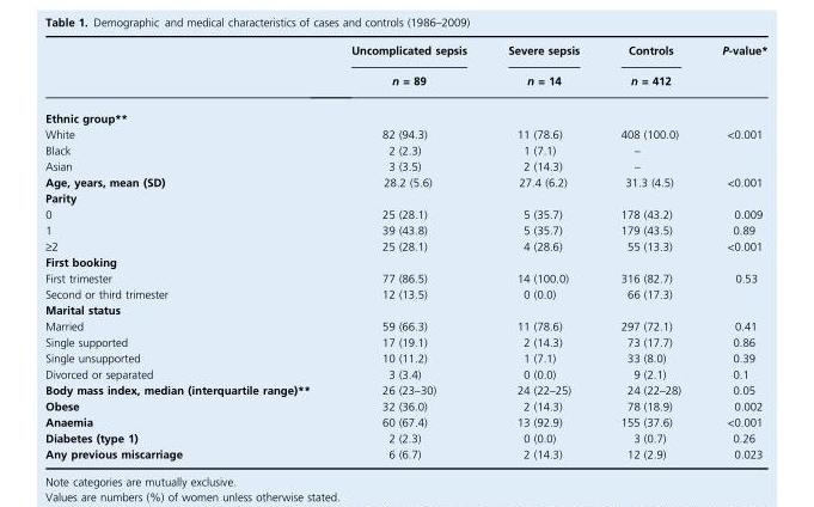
<table><thead><tr><td rowspan="2"></td><td rowspan="2">Uncomplicated sepsis n = 89</td><td rowspan="2">Severe sepsis n = 14</td><td rowspan="2">Controls n = 412</td><td rowspan="2">P-value*</td></tr><tr></tr></thead><tbody><tr><td colspan="5">Ethnic group**</td></tr><tr><td>White</td><td>82 (94.3)</td><td>11 (78.6)</td><td>408 (100.0)</td><td>&lt;0.001</td></tr><tr><td>Black</td><td>2 (2.3)</td><td>1 (7.1)</td><td>–</td><td></td></tr><tr><td>Asian</td><td>3 (3.5)</td><td>2 (14.3)</td><td>–</td><td></td></tr><tr><td>Age, years, mean (SD)</td><td>28.2 (5.6)</td><td>27.4 (6.2)</td><td>31.3 (4.5)</td><td>&lt;0.001</td></tr><tr><td colspan="5">Parity</td></tr><tr><td>0</td><td>25 (28.1)</td><td>5 (35.7)</td><td>178 (43.2)</td><td>0.009</td></tr><tr><td>1</td><td>39 (43.8)</td><td>5 (35.7)</td><td>179 (43.5)</td><td>0.89</td></tr><tr><td>‡2</td><td>25 (28.1)</td><td>4 (28.6)</td><td>55 (13.3)</td><td>&lt;0.001</td></tr><tr><td colspan="5">First booking</td></tr><tr><td>First trimester</td><td>77 (86.5)</td><td>14 (100.0)</td><td>316 (82.7)</td><td>0.53</td></tr><tr><td>Second or third trimester</td><td>12 (13.5)</td><td>0 (0.0)</td><td>66 (17.3)</td><td></td></tr><tr><td colspan="5">Marital status</td></tr><tr><td>Married</td><td>59 (66.3)</td><td>11 (78.6)</td><td>297 (72.1)</td><td>0.41</td></tr><tr><td>Single supported</td><td>17 (19.1)</td><td>2 (14.3)</td><td>73 (17.7)</td><td>0.86</td></tr><tr><td>Single unsupported</td><td>10 (11.2)</td><td>1 (7.1)</td><td>33 (8.0)</td><td>0.39</td></tr><tr><td>Divorced or separated</td><td>3 (3.4)</td><td>0 (0.0)</td><td>9 (2.1)</td><td>0.1</td></tr><tr><td>Body mass index, median (interquartile range)**</td><td>26 (23–30)</td><td>24 (22–25)</td><td>24 (22–28)</td><td>0.05</td></tr><tr><td>Obese</td><td>32 (36.0)</td><td>2 (14.3)</td><td>78 (18.9)</td><td>0.002</td></tr><tr><td>Anaemia</td><td>60 (67.4)</td><td>13 (92.9)</td><td>155 (37.6)</td><td>&lt;0.001</td></tr><tr><td>Diabetes (type 1)</td><td>2 (2.3)</td><td>0 (0.0)</td><td>3 (0.7)</td><td>0.26</td></tr><tr><td>Any previous miscarriage</td><td>6 (6.7)</td><td>2 (14.3)</td><td>12 (2.9)</td><td>0.023</td></tr></tbody></table>